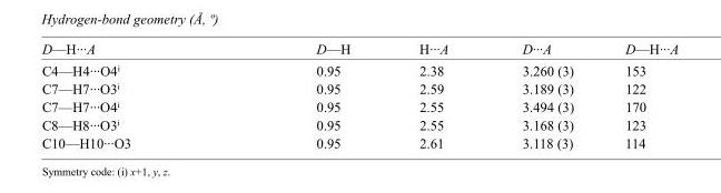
<table><tbody><tr><td>D—H···A</td><td>D—H</td><td>H···A</td><td>D···A</td><td>D—H···A</td></tr><tr><td>C4—H4···O4<sup>i</sup></td><td>0.95</td><td>2.38</td><td>3.260 (3)</td><td>153</td></tr><tr><td>C7—H7···O3<sup>i</sup></td><td>0.95</td><td>2.59</td><td>3.189 (3)</td><td>122</td></tr><tr><td>C7—H7···O4<sup>i</sup></td><td>0.95</td><td>2.55</td><td>3.494 (3)</td><td>170</td></tr><tr><td>C8—H8···O3<sup>i</sup></td><td>0.95</td><td>2.55</td><td>3.168 (3)</td><td>123</td></tr><tr><td>C10—H10···O3</td><td>0.95</td><td>2.61</td><td>3.118 (3)</td><td>114</td></tr></tbody></table>